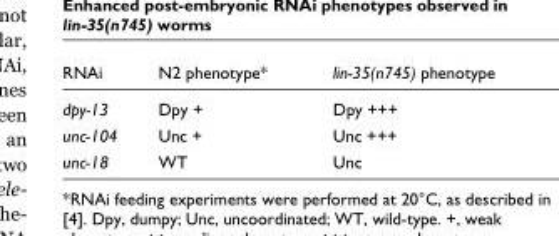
<table><thead><tr><td>RNAi</td><td>N2 phenotype*</td><td>lin-35(n745) phenotype</td></tr></thead><tbody><tr><td>dpy-13</td><td>Dpy +</td><td>Dpy +++</td></tr><tr><td>unc-104</td><td>Unc +</td><td>Unc +++</td></tr><tr><td>unc-18</td><td>WT</td><td>Unc</td></tr></tbody></table>